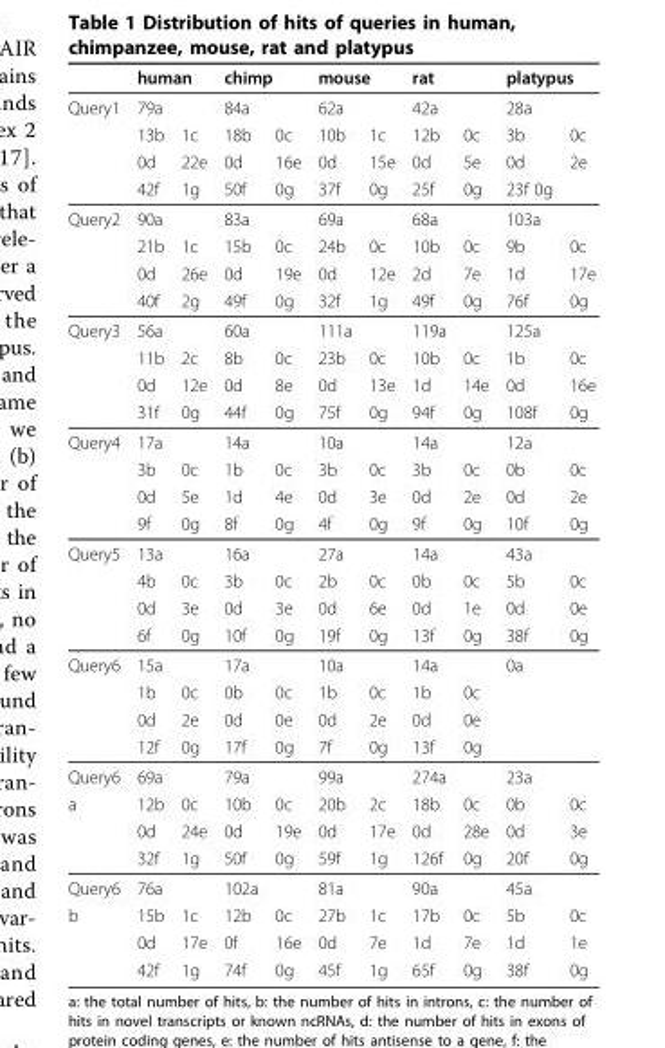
<table><thead><tr><td rowspan="2">Query1</td><td colspan="2">human</td><td colspan="2">chimp</td><td colspan="2">mouse</td><td colspan="2">rat</td><td colspan="2">platypus</td></tr><tr><td>79a</td><td></td><td>84a</td><td></td><td>62a</td><td></td><td>42a</td><td></td><td>28a</td><td></td></tr></thead><tbody><tr><td></td><td>13b</td><td>1c</td><td>18b</td><td>0c</td><td>10b</td><td>1c</td><td>12b</td><td>0c</td><td>3b</td><td>0c</td></tr><tr><td></td><td>0d</td><td>22e</td><td>0d</td><td>16e</td><td>0d</td><td>15e</td><td>0d</td><td>5e</td><td>0d</td><td>2e</td></tr><tr><td></td><td>42f</td><td>1g</td><td>50f</td><td>0g</td><td>37f</td><td>0g</td><td>25f</td><td>0g</td><td>23f 0g</td><td></td></tr><tr><td rowspan="4">Query2</td><td>90a</td><td></td><td>83a</td><td></td><td>69a</td><td></td><td>68a</td><td></td><td>103a</td><td></td></tr><tr><td>21b</td><td>1c</td><td>15b</td><td>0c</td><td>24b</td><td>0c</td><td>10b</td><td>0c</td><td>9b</td><td>0c</td></tr><tr><td>0d</td><td>26e</td><td>0d</td><td>19e</td><td>0d</td><td>12e</td><td>2d</td><td>7e</td><td>1d</td><td>17e</td></tr><tr><td>40f</td><td>2g</td><td>49f</td><td>0g</td><td>32f</td><td>1g</td><td>49f</td><td>0g</td><td>76f</td><td>0g</td></tr><tr><td rowspan="4">Query3</td><td>56a</td><td></td><td>60a</td><td></td><td>111a</td><td></td><td>119a</td><td></td><td>125a</td><td></td></tr><tr><td>11b</td><td>2c</td><td>8b</td><td>0c</td><td>23b</td><td>0c</td><td>10b</td><td>0c</td><td>1b</td><td>0c</td></tr><tr><td>0d</td><td>12e</td><td>0d</td><td>8e</td><td>0d</td><td>13e</td><td>1d</td><td>14e</td><td>0d</td><td>16e</td></tr><tr><td>31f</td><td>0g</td><td>44f</td><td>0g</td><td>75f</td><td>0g</td><td>94f</td><td>0g</td><td>108f</td><td>0g</td></tr><tr><td rowspan="4">Query4</td><td>17a</td><td></td><td>14a</td><td></td><td>10a</td><td></td><td>14a</td><td></td><td>12a</td><td></td></tr><tr><td>3b</td><td>0c</td><td>1b</td><td>0c</td><td>3b</td><td>0c</td><td>3b</td><td>0c</td><td>0b</td><td>0c</td></tr><tr><td>0d</td><td>5e</td><td>1d</td><td>4e</td><td>0d</td><td>3e</td><td>0d</td><td>2e</td><td>0d</td><td>2e</td></tr><tr><td>9f</td><td>0g</td><td>8f</td><td>0g</td><td>4f</td><td>0g</td><td>9f</td><td>0g</td><td>10f</td><td>0g</td></tr><tr><td rowspan="4">Query5</td><td>13a</td><td></td><td>16a</td><td></td><td>27a</td><td></td><td>14a</td><td></td><td>43a</td><td></td></tr><tr><td>4b</td><td>0c</td><td>3b</td><td>0c</td><td>2b</td><td>0c</td><td>0b</td><td>0c</td><td>5b</td><td>0c</td></tr><tr><td>0d</td><td>3e</td><td>0d</td><td>3e</td><td>0d</td><td>6e</td><td>0d</td><td>1e</td><td>0d</td><td>0e</td></tr><tr><td>6f</td><td>0g</td><td>10f</td><td>0g</td><td>19f</td><td>0g</td><td>13f</td><td>0g</td><td>38f</td><td>0g</td></tr><tr><td rowspan="4">Query6</td><td>15a</td><td></td><td>17a</td><td></td><td>10a</td><td></td><td>14a</td><td></td><td>0a</td><td></td></tr><tr><td>1b</td><td>0c</td><td>0b</td><td>0c</td><td>1b</td><td>0c</td><td>1b</td><td>0c</td><td></td><td></td></tr><tr><td>0d</td><td>2e</td><td>0d</td><td>0e</td><td>0d</td><td>2e</td><td>0d</td><td>0e</td><td></td><td></td></tr><tr><td>12f</td><td>0g</td><td>17f</td><td>0g</td><td>7f</td><td>0g</td><td>13f</td><td>0g</td><td></td><td></td></tr><tr><td>Query6</td><td>69a</td><td></td><td>79a</td><td></td><td>99a</td><td></td><td>274a</td><td></td><td>23a</td><td></td></tr><tr><td rowspan="3">a</td><td>12b</td><td>0c</td><td>10b</td><td>0c</td><td>20b</td><td>2c</td><td>18b</td><td>0c</td><td>0b</td><td>0c</td></tr><tr><td>0d</td><td>24e</td><td>0d</td><td>19e</td><td>0d</td><td>17e</td><td>0d</td><td>28e</td><td>0d</td><td>3e</td></tr><tr><td>32f</td><td>1g</td><td>50f</td><td>0g</td><td>59f</td><td>1g</td><td>126f</td><td>0g</td><td>20f</td><td>0g</td></tr><tr><td>Query6</td><td>76a</td><td></td><td>102a</td><td></td><td>81a</td><td></td><td>90a</td><td></td><td>45a</td><td></td></tr><tr><td rowspan="3">b</td><td>15b</td><td>1c</td><td>12b</td><td>0c</td><td>27b</td><td>1c</td><td>17b</td><td>0c</td><td>5b</td><td>0c</td></tr><tr><td>0d</td><td>17e</td><td>0f</td><td>16e</td><td>0d</td><td>7e</td><td>1d</td><td>7e</td><td>1d</td><td>1e</td></tr><tr><td>42f</td><td>1g</td><td>74f</td><td>0g</td><td>45f</td><td>1g</td><td>65f</td><td>0g</td><td>38f</td><td>0g</td></tr></tbody></table>